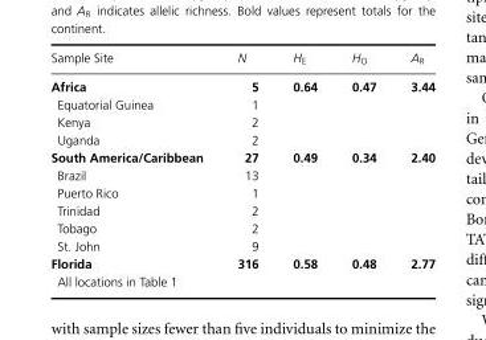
<table><thead><tr><td>Sample Site</td><td>N</td><td>H<sub>E</sub></td><td>H<sub>O</sub></td><td>A<sub>R</sub></td></tr></thead><tbody><tr><td>Africa</td><td>5</td><td>0.64</td><td>0.47</td><td>3.44</td></tr><tr><td>Equatorial Guinea</td><td>1</td><td></td><td></td><td></td></tr><tr><td>Kenya</td><td>2</td><td></td><td></td><td></td></tr><tr><td>Uganda</td><td>2</td><td></td><td></td><td></td></tr><tr><td>South America/Caribbean</td><td>27</td><td>0.49</td><td>0.34</td><td>2.40</td></tr><tr><td>Brazil</td><td>13</td><td></td><td></td><td></td></tr><tr><td>Puerto Rico</td><td>1</td><td></td><td></td><td></td></tr><tr><td>Trinidad</td><td>2</td><td></td><td></td><td></td></tr><tr><td>Tobago</td><td>2</td><td></td><td></td><td></td></tr><tr><td>St. John</td><td>9</td><td></td><td></td><td></td></tr><tr><td>Florida</td><td>316</td><td>0.58</td><td>0.48</td><td>2.77</td></tr><tr><td>All locations in Table 1</td><td></td><td></td><td></td><td></td></tr></tbody></table>